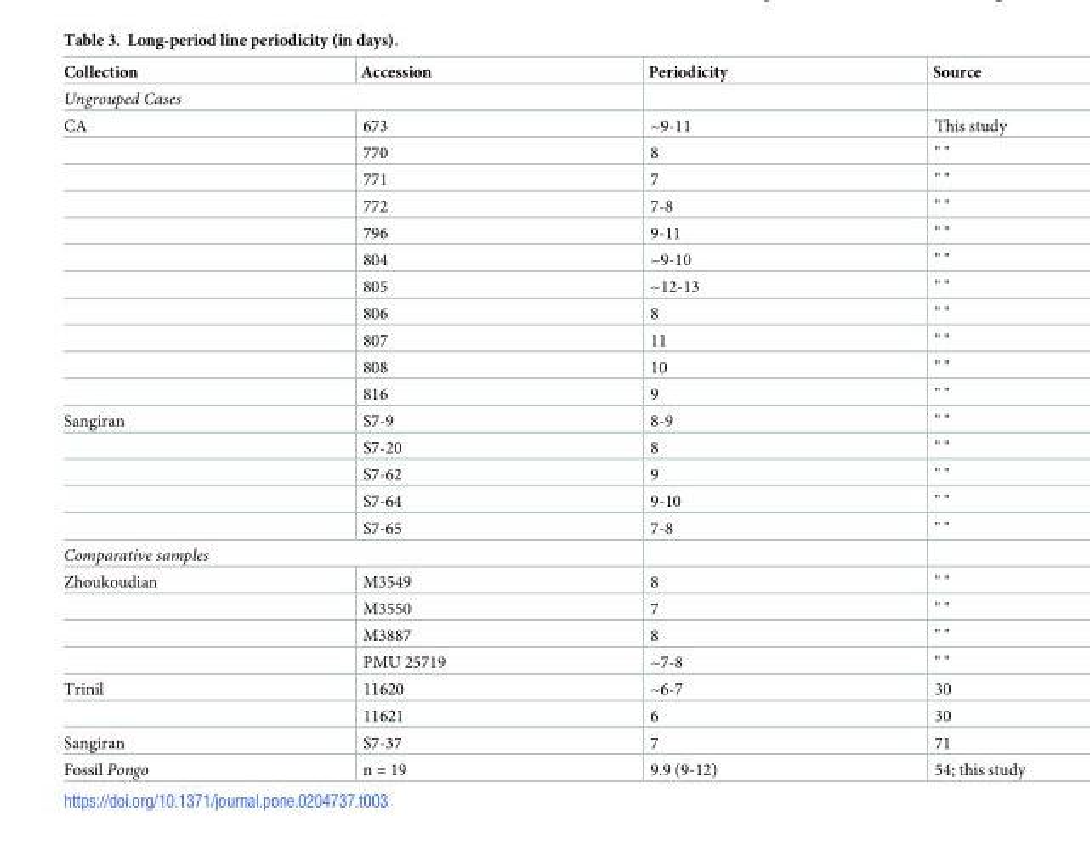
<table><thead><tr><td>Collection</td><td>Accession</td><td>Periodicity</td><td>Source</td></tr></thead><tbody><tr><td colspan="4">Ungrouped Cases</td></tr><tr><td rowspan="11">CA</td><td>673</td><td>~9-11</td><td>This study</td></tr><tr><td>770</td><td>8</td><td>&quot; &quot;</td></tr><tr><td>771</td><td>7</td><td>&quot; &quot;</td></tr><tr><td>772</td><td>7-8</td><td>&quot; &quot;</td></tr><tr><td>796</td><td>9-11</td><td>&quot; &quot;</td></tr><tr><td>804</td><td>~9-10</td><td>&quot; &quot;</td></tr><tr><td>805</td><td>~12-13</td><td>&quot; &quot;</td></tr><tr><td>806</td><td>8</td><td>&quot; &quot;</td></tr><tr><td>807</td><td>11</td><td>&quot; &quot;</td></tr><tr><td>808</td><td>10</td><td>&quot; &quot;</td></tr><tr><td>816</td><td>9</td><td>&quot; &quot;</td></tr><tr><td rowspan="5">Sangiran</td><td>S7-9</td><td>8-9</td><td>&quot; &quot;</td></tr><tr><td>S7-20</td><td>8</td><td>&quot; &quot;</td></tr><tr><td>S7-62</td><td>9</td><td>&quot; &quot;</td></tr><tr><td>S7-64</td><td>9-10</td><td>&quot; &quot;</td></tr><tr><td>S7-65</td><td>7-8</td><td>&quot; &quot;</td></tr><tr><td colspan="4">Comparative samples</td></tr><tr><td rowspan="4">Zhoukoudian</td><td>M3549</td><td>8</td><td>&quot; &quot;</td></tr><tr><td>M3550</td><td>7</td><td>&quot; &quot;</td></tr><tr><td>M3887</td><td>8</td><td>&quot; &quot;</td></tr><tr><td>PMU 25719</td><td>~7-8</td><td>&quot; &quot;</td></tr><tr><td rowspan="2">Trinil</td><td>11620</td><td>~6-7</td><td>30</td></tr><tr><td>11621</td><td>6</td><td>30</td></tr><tr><td>Sangiran</td><td>S7-37</td><td>7</td><td>71</td></tr><tr><td>Fossil Pongo</td><td>n = 19</td><td>9.9 (9-12)</td><td>54; this study</td></tr></tbody></table>